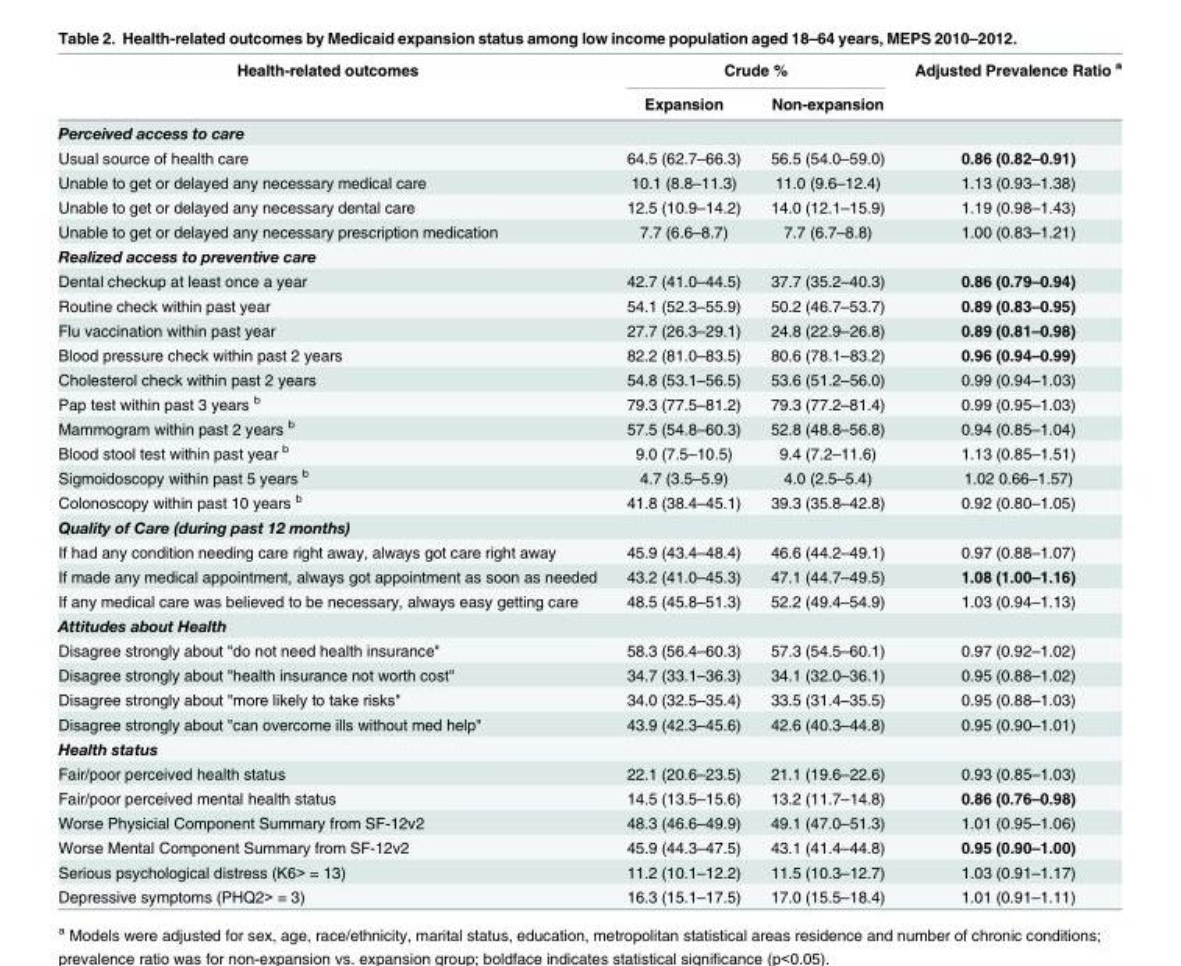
<table><thead><tr><td rowspan="2">Health-related outcomes</td><td colspan="2">Crude %</td><td rowspan="2">Adjusted Prevalence Ratio <sup>a</sup></td></tr><tr><td>Expansion</td><td>Non-expansion</td></tr></thead><tbody><tr><td colspan="4">Perceived access to care</td></tr><tr><td>Usual source of health care</td><td>64.5 (62.7–66.3)</td><td>56.5 (54.0–59.0)</td><td>0.86 (0.82–0.91)</td></tr><tr><td>Unable to get or delayed any necessary medical care</td><td>10.1 (8.8–11.3)</td><td>11.0 (9.6–12.4)</td><td>1.13 (0.93–1.38)</td></tr><tr><td>Unable to get or delayed any necessary dental care</td><td>12.5 (10.9–14.2)</td><td>14.0 (12.1–15.9)</td><td>1.19 (0.98–1.43)</td></tr><tr><td>Unable to get or delayed any necessary prescription medication</td><td>7.7 (6.6–8.7)</td><td>7.7 (6.7–8.8)</td><td>1.00 (0.83–1.21)</td></tr><tr><td colspan="4">Realized access to preventive care</td></tr><tr><td>Dental checkup at least once a year</td><td>42.7 (41.0–44.5)</td><td>37.7 (35.2–40.3)</td><td>0.86 (0.79–0.94)</td></tr><tr><td>Routine check within past year</td><td>54.1 (52.3–55.9)</td><td>50.2 (46.7–53.7)</td><td>0.89 (0.83–0.95)</td></tr><tr><td>Flu vaccination within past year</td><td>27.7 (26.3–29.1)</td><td>24.8 (22.9–26.8)</td><td>0.89 (0.81–0.98)</td></tr><tr><td>Blood pressure check within past 2 years</td><td>82.2 (81.0–83.5)</td><td>80.6 (78.1–83.2)</td><td>0.96 (0.94–0.99)</td></tr><tr><td>Cholesterol check within past 2 years</td><td>54.8 (53.1–56.5)</td><td>53.6 (51.2–56.0)</td><td>0.99 (0.94–1.03)</td></tr><tr><td>Pap test within past 3 years <sup>b</sup></td><td>79.3 (77.5–81.2)</td><td>79.3 (77.2–81.4)</td><td>0.99 (0.95–1.03)</td></tr><tr><td>Mammogram within past 2 years <sup>b</sup></td><td>57.5 (54.8–60.3)</td><td>52.8 (48.8–56.8)</td><td>0.94 (0.85–1.04)</td></tr><tr><td>Blood stool test within past year <sup>b</sup></td><td>9.0 (7.5–10.5)</td><td>9.4 (7.2–11.6)</td><td>1.13 (0.85–1.51)</td></tr><tr><td>Sigmoidoscopy within past 5 years <sup>b</sup></td><td>4.7 (3.5–5.9)</td><td>4.0 (2.5–5.4)</td><td>1.02 0.66–1.57)</td></tr><tr><td>Colonoscopy within past 10 years <sup>b</sup></td><td>41.8 (38.4–45.1)</td><td>39.3 (35.8–42.8)</td><td>0.92 (0.80–1.05)</td></tr><tr><td colspan="4">Quality of Care (during past 12 months)</td></tr><tr><td>If had any condition needing care right away, always got care right away</td><td>45.9 (43.4–48.4)</td><td>46.6 (44.2–49.1)</td><td>0.97 (0.88–1.07)</td></tr><tr><td>If made any medical appointment, always got appointment as soon as needed</td><td>43.2 (41.0–45.3)</td><td>47.1 (44.7–49.5)</td><td>1.08 (1.00–1.16)</td></tr><tr><td>If any medical care was believed to be necessary, always easy getting care</td><td>48.5 (45.8–51.3)</td><td>52.2 (49.4–54.9)</td><td>1.03 (0.94–1.13)</td></tr><tr><td colspan="4">Attitudes about Health</td></tr><tr><td>Disagree strongly about &quot;do not need health insurance&quot;</td><td>58.3 (56.4–60.3)</td><td>57.3 (54.5–60.1)</td><td>0.97 (0.92–1.02)</td></tr><tr><td>Disagree strongly about &quot;health insurance not worth cost&quot;</td><td>34.7 (33.1–36.3)</td><td>34.1 (32.0–36.1)</td><td>0.95 (0.88–1.02)</td></tr><tr><td>Disagree strongly about &quot;more likely to take risks&quot;</td><td>34.0 (32.5–35.4)</td><td>33.5 (31.4–35.5)</td><td>0.95 (0.88–1.03)</td></tr><tr><td>Disagree strongly about &quot;can overcome ills without med help&quot;</td><td>43.9 (42.3–45.6)</td><td>42.6 (40.3–44.8)</td><td>0.95 (0.90–1.01)</td></tr><tr><td colspan="4">Health status</td></tr><tr><td>Fair/poor perceived health status</td><td>22.1 (20.6–23.5)</td><td>21.1 (19.6–22.6)</td><td>0.93 (0.85–1.03)</td></tr><tr><td>Fair/poor perceived mental health status</td><td>14.5 (13.5–15.6)</td><td>13.2 (11.7–14.8)</td><td>0.86 (0.76–0.98)</td></tr><tr><td>Worse Physicial Component Summary from SF-12v2</td><td>48.3 (46.6–49.9)</td><td>49.1 (47.0–51.3)</td><td>1.01 (0.95–1.06)</td></tr><tr><td>Worse Mental Component Summary from SF-12v2</td><td>45.9 (44.3–47.5)</td><td>43.1 (41.4–44.8)</td><td>0.95 (0.90–1.00)</td></tr><tr><td>Serious psychological distress (K6&gt; = 13)</td><td>11.2 (10.1–12.2)</td><td>11.5 (10.3–12.7)</td><td>1.03 (0.91–1.17)</td></tr><tr><td>Depressive symptoms (PHQ2&gt; = 3)</td><td>16.3 (15.1–17.5)</td><td>17.0 (15.5–18.4)</td><td>1.01 (0.91–1.11)</td></tr></tbody></table>